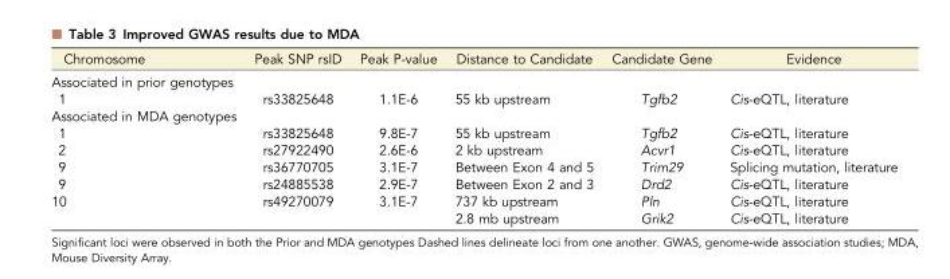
<table><thead><tr><td>Chromosome</td><td>Peak SNP rsID</td><td>Peak P-value</td><td>Distance to Candidate</td><td>Candidate Gene</td><td>Evidence</td></tr></thead><tbody><tr><td colspan="6">Associated in prior genotypes</td></tr><tr><td>1</td><td>rs33825648</td><td>1.1E-6</td><td>55 kb upstream</td><td>Tgfb2</td><td>Cis-eQTL, literature</td></tr><tr><td colspan="6">Associated in MDA genotypes</td></tr><tr><td>1</td><td>rs33825648</td><td>9.8E-7</td><td>55 kb upstream</td><td>Tgfb2</td><td>Cis-eQTL, literature</td></tr><tr><td>2</td><td>rs27922490</td><td>2.6E-6</td><td>2 kb upstream</td><td>Acvr1</td><td>Cis-eQTL, literature</td></tr><tr><td>9</td><td>rs36770705</td><td>3.1E-7</td><td>Between Exon 4 and 5</td><td>Trim29</td><td>Splicing mutation, literature</td></tr><tr><td>9</td><td>rs24885538</td><td>2.9E-7</td><td>Between Exon 2 and 3</td><td>Drd2</td><td>Cis-eQTL, literature</td></tr><tr><td rowspan="2">10</td><td>rs49270079</td><td>3.1E-7</td><td>737 kb upstream</td><td>Pln</td><td>Cis-eQTL, literature</td></tr><tr><td></td><td></td><td>2.8 mb upstream</td><td>Grik2</td><td>Cis-eQTL, literature</td></tr></tbody></table>